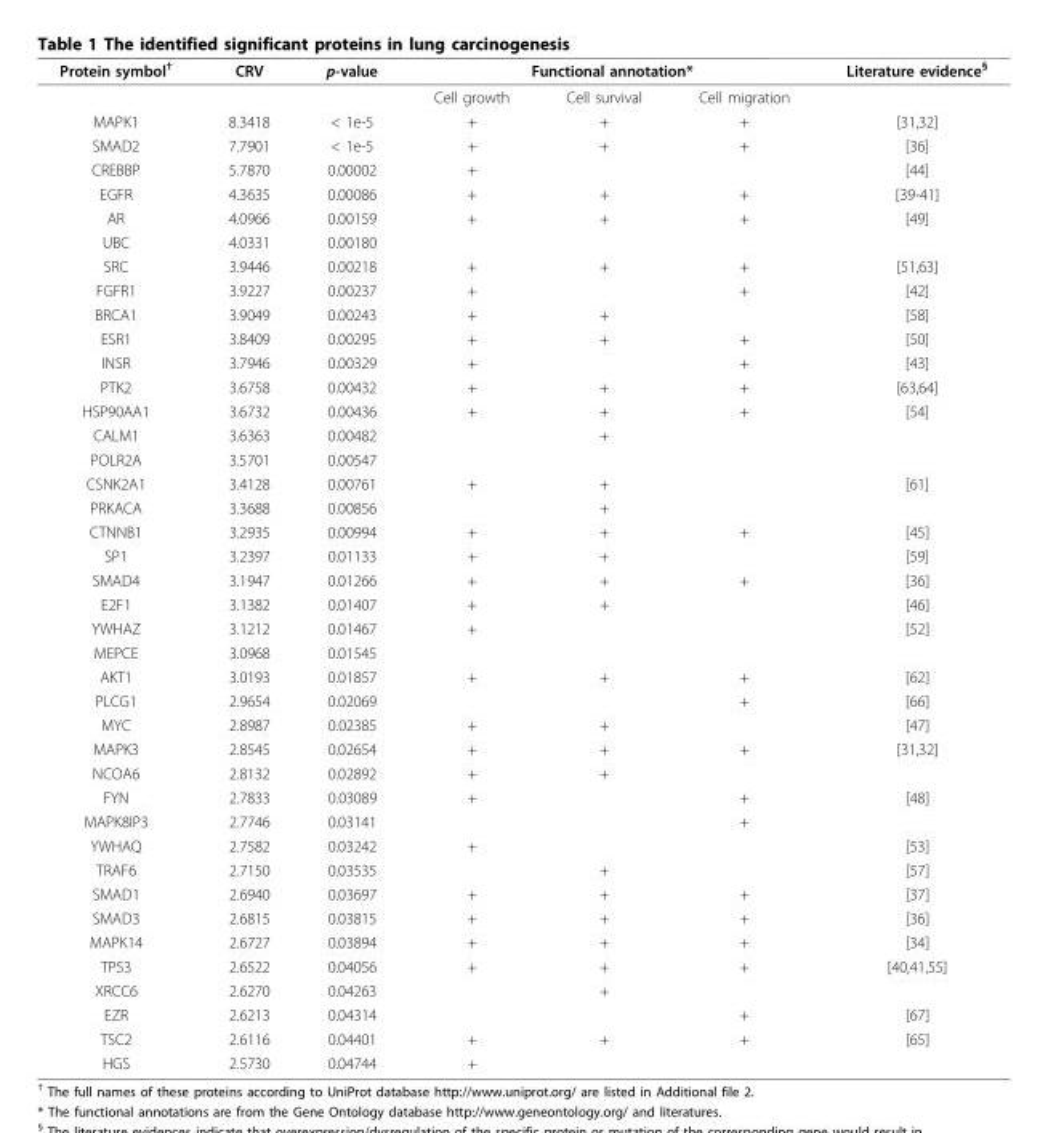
<table><thead><tr><td rowspan="2">Protein symbol<sup>†</sup></td><td rowspan="2">CRV</td><td rowspan="2">p-value</td><td colspan="3">Functional annotation*</td><td rowspan="2">Literature evidence<sup>§</sup></td></tr><tr><td>Cell growth</td><td>Cell survival</td><td>Cell migration</td></tr></thead><tbody><tr><td>MAPK1</td><td>8.3418</td><td>&lt; 1e-5</td><td>+</td><td>+</td><td>+</td><td>[31,32]</td></tr><tr><td>SMAD2</td><td>7.7901</td><td>&lt; 1e-5</td><td>+</td><td>+</td><td>+</td><td>[36]</td></tr><tr><td>CREBBP</td><td>5.7870</td><td>0.00002</td><td>+</td><td></td><td></td><td>[44]</td></tr><tr><td>EGFR</td><td>4.3635</td><td>0.00086</td><td>+</td><td>+</td><td>+</td><td>[39-41]</td></tr><tr><td>AR</td><td>4.0966</td><td>0.00159</td><td>+</td><td>+</td><td>+</td><td>[49]</td></tr><tr><td>UBC</td><td>4.0331</td><td>0.00180</td><td></td><td></td><td></td><td></td></tr><tr><td>SRC</td><td>3.9446</td><td>0.00218</td><td>+</td><td>+</td><td>+</td><td>[51,63]</td></tr><tr><td>FGFR1</td><td>3.9227</td><td>0.00237</td><td>+</td><td></td><td>+</td><td>[42]</td></tr><tr><td>BRCA1</td><td>3.9049</td><td>0.00243</td><td>+</td><td>+</td><td></td><td>[58]</td></tr><tr><td>ESR1</td><td>3.8409</td><td>0.00295</td><td>+</td><td>+</td><td>+</td><td>[50]</td></tr><tr><td>INSR</td><td>3.7946</td><td>0.00329</td><td>+</td><td></td><td>+</td><td>[43]</td></tr><tr><td>PTK2</td><td>3.6758</td><td>0.00432</td><td>+</td><td>+</td><td>+</td><td>[63,64]</td></tr><tr><td>HSP90AA1</td><td>3.6732</td><td>0.00436</td><td>+</td><td>+</td><td>+</td><td>[54]</td></tr><tr><td>CALM1</td><td>3.6363</td><td>0.00482</td><td></td><td>+</td><td></td><td></td></tr><tr><td>POLR2A</td><td>3.5701</td><td>0.00547</td><td></td><td></td><td></td><td></td></tr><tr><td>CSNK2A1</td><td>3.4128</td><td>0.00761</td><td>+</td><td>+</td><td></td><td>[61]</td></tr><tr><td>PRKACA</td><td>3.3688</td><td>0.00856</td><td></td><td>+</td><td></td><td></td></tr><tr><td>CTNNB1</td><td>3.2935</td><td>0.00994</td><td>+</td><td>+</td><td>+</td><td>[45]</td></tr><tr><td>SP1</td><td>3.2397</td><td>0.01133</td><td>+</td><td>+</td><td></td><td>[59]</td></tr><tr><td>SMAD4</td><td>3.1947</td><td>0.01266</td><td>+</td><td>+</td><td>+</td><td>[36]</td></tr><tr><td>E2F1</td><td>3.1382</td><td>0.01407</td><td>+</td><td>+</td><td></td><td>[46]</td></tr><tr><td>YWHAZ</td><td>3.1212</td><td>0.01467</td><td>+</td><td></td><td></td><td>[52]</td></tr><tr><td>MEPCE</td><td>3.0968</td><td>0.01545</td><td></td><td></td><td></td><td></td></tr><tr><td>AKT1</td><td>3.0193</td><td>0.01857</td><td>+</td><td>+</td><td>+</td><td>[62]</td></tr><tr><td>PLCG1</td><td>2.9654</td><td>0.02069</td><td></td><td></td><td>+</td><td>[66]</td></tr><tr><td>MYC</td><td>2.8987</td><td>0.02385</td><td>+</td><td>+</td><td></td><td>[47]</td></tr><tr><td>MAPK3</td><td>2.8545</td><td>0.02654</td><td>+</td><td>+</td><td>+</td><td>[31,32]</td></tr><tr><td>NCOA6</td><td>2.8132</td><td>0.02892</td><td>+</td><td>+</td><td></td><td></td></tr><tr><td>FYN</td><td>2.7833</td><td>0.03089</td><td>+</td><td></td><td>+</td><td>[48]</td></tr><tr><td>MAPK8IP3</td><td>2.7746</td><td>0.03141</td><td></td><td></td><td>+</td><td></td></tr><tr><td>YWHAQ</td><td>2.7582</td><td>0.03242</td><td>+</td><td></td><td></td><td>[53]</td></tr><tr><td>TRAF6</td><td>2.7150</td><td>0.03535</td><td></td><td>+</td><td></td><td>[57]</td></tr><tr><td>SMAD1</td><td>2.6940</td><td>0.03697</td><td>+</td><td>+</td><td>+</td><td>[37]</td></tr><tr><td>SMAD3</td><td>2.6815</td><td>0.03815</td><td>+</td><td>+</td><td>+</td><td>[36]</td></tr><tr><td>MAPK14</td><td>2.6727</td><td>0.03894</td><td>+</td><td>+</td><td>+</td><td>[34]</td></tr><tr><td>TP53</td><td>2.6522</td><td>0.04056</td><td>+</td><td>+</td><td>+</td><td>[40,41,55]</td></tr><tr><td>XRCC6</td><td>2.6270</td><td>0.04263</td><td></td><td>+</td><td></td><td></td></tr><tr><td>EZR</td><td>2.6213</td><td>0.04314</td><td></td><td></td><td>+</td><td>[67]</td></tr><tr><td>TSC2</td><td>2.6116</td><td>0.04401</td><td>+</td><td>+</td><td>+</td><td>[65]</td></tr><tr><td>HGS</td><td>2.5730</td><td>0.04744</td><td>+</td><td></td><td></td><td></td></tr></tbody></table>